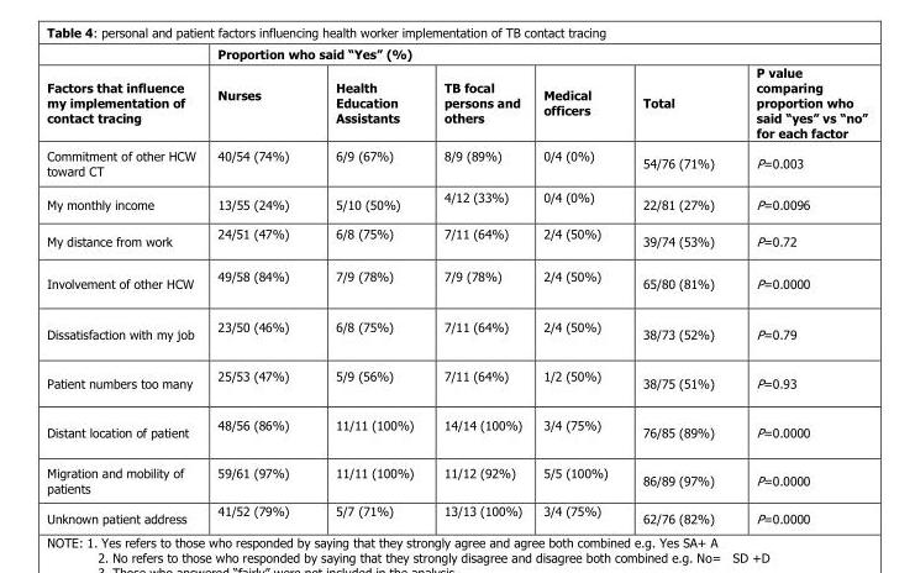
<table><thead><tr><td rowspan="2">Factors that influence my implementation of contact tracing</td><td colspan="6">Proportion who said “Yes” (%)</td></tr><tr><td>Nurses</td><td>Health Education Assistants</td><td>TB focal persons and others</td><td>Medical officers</td><td>Total</td><td>P value comparing proportion who said “yes” vs “no” for each factor</td></tr></thead><tbody><tr><td>Commitment of other HCW toward CT</td><td>40/54 (74%)</td><td>6/9 (67%)</td><td>8/9 (89%)</td><td>0/4 (0%)</td><td>54/76 (71%)</td><td>P=0.003</td></tr><tr><td>My monthly income</td><td>13/55 (24%)</td><td>5/10 (50%)</td><td>4/12 (33%)</td><td>0/4 (0%)</td><td>22/81 (27%)</td><td>P=0.0096</td></tr><tr><td>My distance from work</td><td>24/51 (47%)</td><td>6/8 (75%)</td><td>7/11 (64%)</td><td>2/4 (50%)</td><td>39/74 (53%)</td><td>P=0.72</td></tr><tr><td>Involvement of other HCW</td><td>49/58 (84%)</td><td>7/9 (78%)</td><td>7/9 (78%)</td><td>2/4 (50%)</td><td>65/80 (81%)</td><td>P=0.0000</td></tr><tr><td>Dissatisfaction with my job</td><td>23/50 (46%)</td><td>6/8 (75%)</td><td>7/11 (64%)</td><td>2/4 (50%)</td><td>38/73 (52%)</td><td>P=0.79</td></tr><tr><td>Patient numbers too many</td><td>25/53 (47%)</td><td>5/9 (56%)</td><td>7/11 (64%)</td><td>1/2 (50%)</td><td>38/75 (51%)</td><td>P=0.93</td></tr><tr><td>Distant location of patient</td><td>48/56 (86%)</td><td>11/11 (100%)</td><td>14/14 (100%)</td><td>3/4 (75%)</td><td>76/85 (89%)</td><td>P=0.0000</td></tr><tr><td>Migration and mobility of patients</td><td>59/61 (97%)</td><td>11/11 (100%)</td><td>11/12 (92%)</td><td>5/5 (100%)</td><td>86/89 (97%)</td><td>P=0.0000</td></tr><tr><td>Unknown patient address</td><td>41/52 (79%)</td><td>5/7 (71%)</td><td>13/13 (100%)</td><td>3/4 (75%)</td><td>62/76 (82%)</td><td>P=0.0000</td></tr></tbody></table>